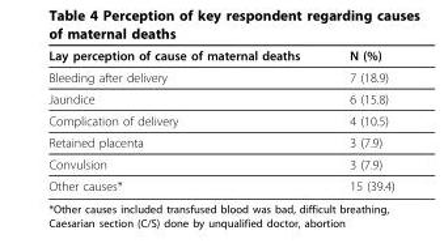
<table><thead><tr><td>Lay perception of cause of maternal deaths</td><td>N (%)</td></tr></thead><tbody><tr><td>Bleeding after delivery</td><td>7 (18.9)</td></tr><tr><td>Jaundice</td><td>6 (15.8)</td></tr><tr><td>Complication of delivery</td><td>4 (10.5)</td></tr><tr><td>Retained placenta</td><td>3 (7.9)</td></tr><tr><td>Convulsion</td><td>3 (7.9)</td></tr><tr><td>Other causes*</td><td>15 (39.4)</td></tr></tbody></table>